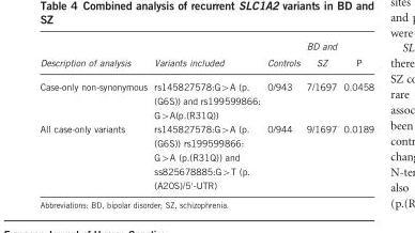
<table><thead><tr><td>Description of analysis</td><td>Variants included</td><td>Controls</td><td>BD and SZ</td><td>P</td></tr></thead><tbody><tr><td>Case-only non-synonymous</td><td>rs145827578:G&gt;A (p. (G6S)) and rs199599866: G&gt;A(p.(R31Q))</td><td>0/943</td><td>7/1697</td><td>0.0458</td></tr><tr><td>All case-only variants</td><td>rs145827578:G&gt;A (p. (G6S)) rs199599866: G&gt;A (p.(R31Q)) and ss825678885:G&gt;T (p. (A20S)/5′-UTR)</td><td>0/944</td><td>9/1697</td><td>0.0189</td></tr></tbody></table>